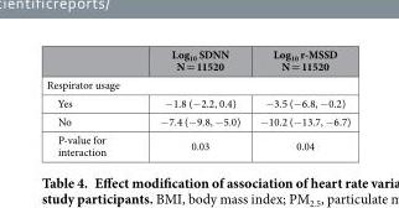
<table><thead><tr><td></td><td>Log<sub>10</sub> SDNN N = 11520</td><td>Log<sub>10</sub> r-MSSD N = 11520</td></tr></thead><tbody><tr><td colspan="3">Respirator usage</td></tr><tr><td>Yes</td><td>− 1.8 (− 2.2, 0.4)</td><td>− 3.5 (− 6.8, − 0.2)</td></tr><tr><td>No</td><td>− 7.4 (− 9.8, − 5.0)</td><td>− 10.2 (− 13.7, − 6.7)</td></tr><tr><td>P-value for interaction</td><td>0.03</td><td>0.04</td></tr></tbody></table>